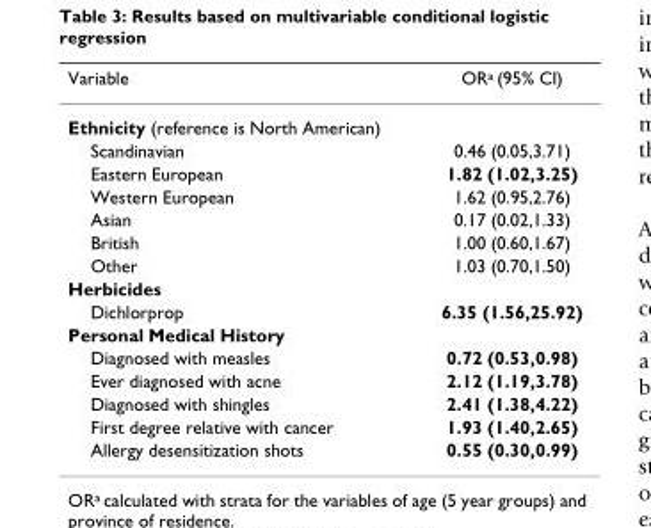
<table><thead><tr><td>Variable</td><td>OR<sup>a</sup> (95% CI)</td></tr></thead><tbody><tr><td colspan="2">Ethnicity (reference is North American)</td></tr><tr><td>Scandinavian</td><td>0.46 (0.05,3.71)</td></tr><tr><td>Eastern European</td><td>1.82 (1.02,3.25)</td></tr><tr><td>Western European</td><td>1.62 (0.95,2.76)</td></tr><tr><td>Asian</td><td>0.17 (0.02,1.33)</td></tr><tr><td>British</td><td>1.00 (0.60,1.67)</td></tr><tr><td>Other</td><td>1.03 (0.70,1.50)</td></tr><tr><td colspan="2">Herbicides</td></tr><tr><td>Dichlorprop</td><td>6.35 (1.56,25.92)</td></tr><tr><td colspan="2">Personal Medical History</td></tr><tr><td>Diagnosed with measles</td><td>0.72 (0.53,0.98)</td></tr><tr><td>Ever diagnosed with acne</td><td>2.12 (1.19,3.78)</td></tr><tr><td>Diagnosed with shingles</td><td>2.41 (1.38,4.22)</td></tr><tr><td>First degree relative with cancer</td><td>1.93 (1.40,2.65)</td></tr><tr><td>Allergy desensitization shots</td><td>0.55 (0.30,0.99)</td></tr></tbody></table>